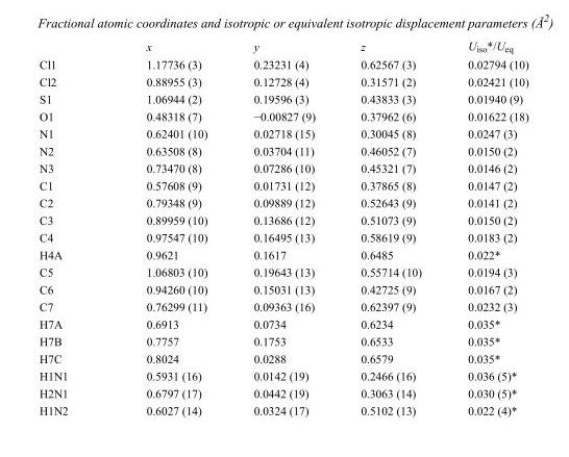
<table><thead><tr><td></td><td>x</td><td>y</td><td>z</td><td>U<sub>iso</sub>*/U<sub>eq</sub></td></tr></thead><tbody><tr><td>Cl1</td><td>1.17736 (3)</td><td>0.23231 (4)</td><td>0.62567 (3)</td><td>0.02794 (10)</td></tr><tr><td>Cl2</td><td>0.88955 (3)</td><td>0.12728 (4)</td><td>0.31571 (2)</td><td>0.02421 (10)</td></tr><tr><td>S1</td><td>1.06944 (2)</td><td>0.19596 (3)</td><td>0.43833 (3)</td><td>0.01940 (9)</td></tr><tr><td>O1</td><td>0.48318 (7)</td><td>−0.00827 (9)</td><td>0.37962 (6)</td><td>0.01622 (18)</td></tr><tr><td>N1</td><td>0.62401 (10)</td><td>0.02718 (15)</td><td>0.30045 (8)</td><td>0.0247 (3)</td></tr><tr><td>N2</td><td>0.63508 (8)</td><td>0.03704 (11)</td><td>0.46052 (7)</td><td>0.0150 (2)</td></tr><tr><td>N3</td><td>0.73470 (8)</td><td>0.07286 (10)</td><td>0.45321 (7)</td><td>0.0146 (2)</td></tr><tr><td>C1</td><td>0.57608 (9)</td><td>0.01731 (12)</td><td>0.37865 (8)</td><td>0.0147 (2)</td></tr><tr><td>C2</td><td>0.79348 (9)</td><td>0.09889 (12)</td><td>0.52643 (9)</td><td>0.0141 (2)</td></tr><tr><td>C3</td><td>0.89959 (10)</td><td>0.13686 (12)</td><td>0.51073 (9)</td><td>0.0150 (2)</td></tr><tr><td>C4</td><td>0.97547 (10)</td><td>0.16495 (13)</td><td>0.58619 (9)</td><td>0.0183 (2)</td></tr><tr><td>H4A</td><td>0.9621</td><td>0.1617</td><td>0.6485</td><td>0.022*</td></tr><tr><td>C5</td><td>1.06803 (10)</td><td>0.19643 (13)</td><td>0.55714 (10)</td><td>0.0194 (3)</td></tr><tr><td>C6</td><td>0.94260 (10)</td><td>0.15031 (13)</td><td>0.42725 (9)</td><td>0.0167 (2)</td></tr><tr><td>C7</td><td>0.76299 (11)</td><td>0.09363 (16)</td><td>0.62397 (9)</td><td>0.0232 (3)</td></tr><tr><td>H7A</td><td>0.6913</td><td>0.0734</td><td>0.6234</td><td>0.035*</td></tr><tr><td>H7B</td><td>0.7757</td><td>0.1753</td><td>0.6533</td><td>0.035*</td></tr><tr><td>H7C</td><td>0.8024</td><td>0.0288</td><td>0.6579</td><td>0.035*</td></tr><tr><td>H1N1</td><td>0.5931 (16)</td><td>0.0142 (19)</td><td>0.2466 (16)</td><td>0.036 (5)*</td></tr><tr><td>H2N1</td><td>0.6797 (17)</td><td>0.0442 (19)</td><td>0.3063 (14)</td><td>0.030 (5)*</td></tr><tr><td>H1N2</td><td>0.6027 (14)</td><td>0.0324 (17)</td><td>0.5102 (13)</td><td>0.022 (4)*</td></tr></tbody></table>